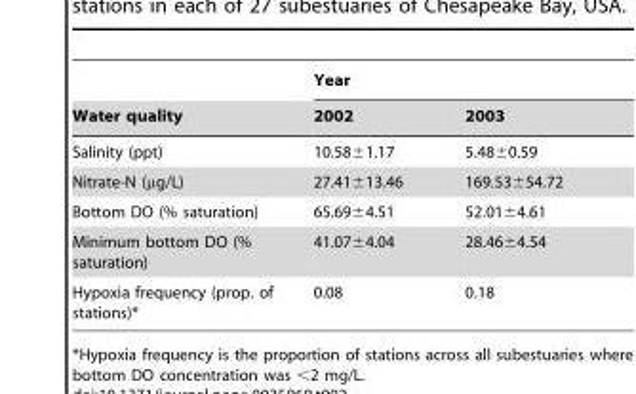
<table><thead><tr><td rowspan="2">Water quality</td><td colspan="2">Year</td></tr><tr><td>2002</td><td>2003</td></tr></thead><tbody><tr><td>Salinity (ppt)</td><td>10.58±1.17</td><td>5.48±0.59</td></tr><tr><td>Nitrate-N (μg/L)</td><td>27.41±13.46</td><td>169.53±54.72</td></tr><tr><td>Bottom DO (% saturation)</td><td>65.69±4.51</td><td>52.01±4.61</td></tr><tr><td>Minimum bottom DO (% saturation)</td><td>41.07±4.04</td><td>28.46±4.54</td></tr><tr><td>Hypoxia frequency (prop. of stations)*</td><td>0.08</td><td>0.18</td></tr></tbody></table>